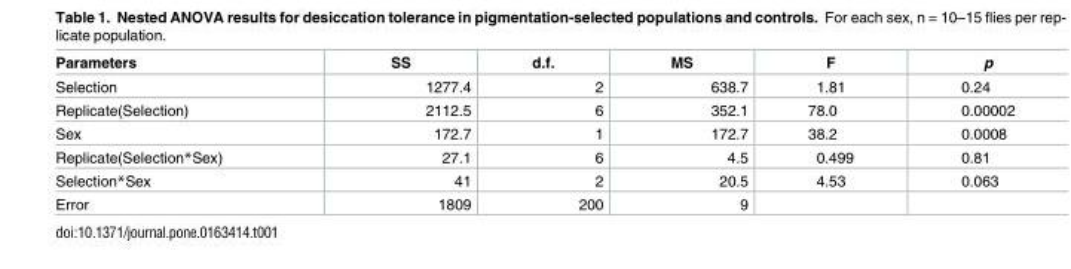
<table><thead><tr><td>Parameters</td><td>SS</td><td>d.f.</td><td>MS</td><td>F</td><td>p</td></tr></thead><tbody><tr><td>Selection</td><td>1277.4</td><td>2</td><td>638.7</td><td>1.81</td><td>0.24</td></tr><tr><td>Replicate(Selection)</td><td>2112.5</td><td>6</td><td>352.1</td><td>78.0</td><td>0.00002</td></tr><tr><td>Sex</td><td>172.7</td><td>1</td><td>172.7</td><td>38.2</td><td>0.0008</td></tr><tr><td>Replicate(Selection*Sex)</td><td>27.1</td><td>6</td><td>4.5</td><td>0.499</td><td>0.81</td></tr><tr><td>Selection*Sex</td><td>41</td><td>2</td><td>20.5</td><td>4.53</td><td>0.063</td></tr><tr><td>Error</td><td>1809</td><td>200</td><td>9</td><td></td><td></td></tr></tbody></table>